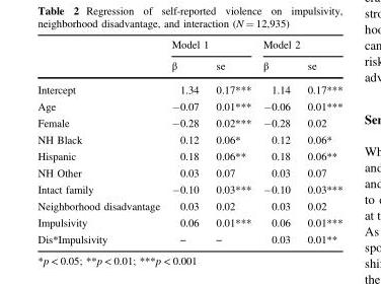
<table><thead><tr><td rowspan="2"></td><td colspan="2">Model 1</td><td colspan="2">Model 2</td></tr><tr><td>β</td><td>se</td><td>β</td><td>se</td></tr></thead><tbody><tr><td>Intercept</td><td>1.34</td><td>0.17***</td><td>1.14</td><td>0.17***</td></tr><tr><td>Age</td><td>−0.07</td><td>0.01***</td><td>−0.06</td><td>0.01***</td></tr><tr><td>Female</td><td>−0.28</td><td>0.02***</td><td>−0.28</td><td>0.02</td></tr><tr><td>NH Black</td><td>0.12</td><td>0.06*</td><td>0.12</td><td>0.06*</td></tr><tr><td>Hispanic</td><td>0.18</td><td>0.06**</td><td>0.18</td><td>0.06**</td></tr><tr><td>NH Other</td><td>0.03</td><td>0.07</td><td>0.03</td><td>0.07</td></tr><tr><td>Intact family</td><td>−0.10</td><td>0.03***</td><td>−0.10</td><td>0.03***</td></tr><tr><td>Neighborhood disadvantage</td><td>0.03</td><td>0.02</td><td>0.03</td><td>0.02</td></tr><tr><td>Impulsivity</td><td>0.06</td><td>0.01***</td><td>0.06</td><td>0.01***</td></tr><tr><td>Dis*Impulsivity</td><td>–</td><td>–</td><td>0.03</td><td>0.01**</td></tr></tbody></table>